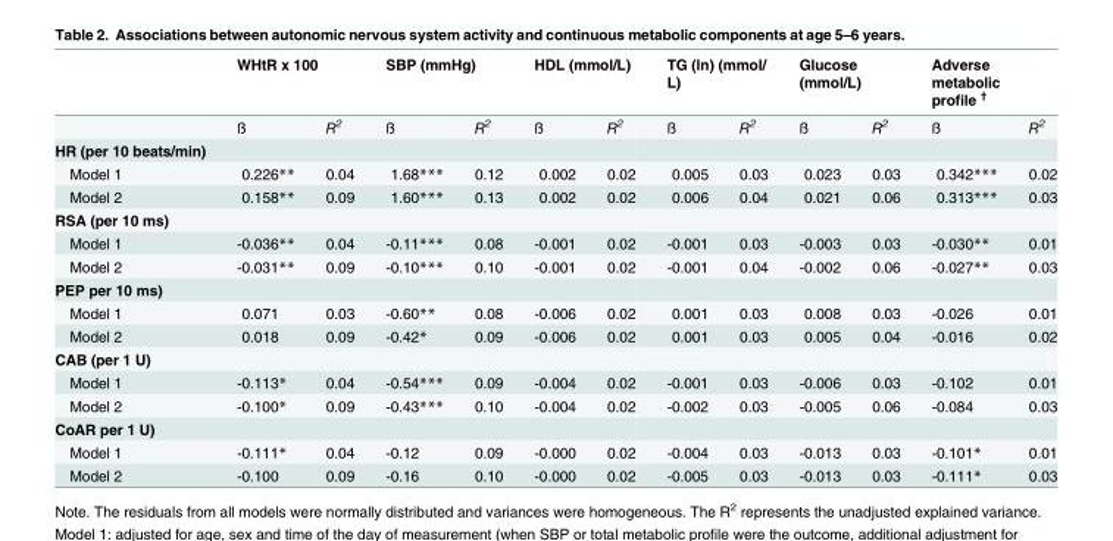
<table><thead><tr><td rowspan="2"></td><td colspan="2">WHtR x 100</td><td colspan="2">SBP (mmHg)</td><td colspan="2">HDL (mmol/L)</td><td colspan="2">TG (ln) (mmol/ L)</td><td colspan="2">Glucose (mmol/L)</td><td colspan="2">Adverse metabolic profile <sup>†</sup></td></tr><tr><td>ß</td><td>R<sup>2</sup></td><td>ß</td><td>R<sup>2</sup></td><td>ß</td><td>R<sup>2</sup></td><td>ß</td><td>R<sup>2</sup></td><td>ß</td><td>R<sup>2</sup></td><td>ß</td><td>R<sup>2</sup></td></tr></thead><tbody><tr><td colspan="13">HR (per 10 beats/min)</td></tr><tr><td>Model 1</td><td>0.226**</td><td>0.04</td><td>1.68***</td><td>0.12</td><td>0.002</td><td>0.02</td><td>0.005</td><td>0.03</td><td>0.023</td><td>0.03</td><td>0.342***</td><td>0.02</td></tr><tr><td>Model 2</td><td>0.158**</td><td>0.09</td><td>1.60***</td><td>0.13</td><td>0.002</td><td>0.02</td><td>0.006</td><td>0.04</td><td>0.021</td><td>0.06</td><td>0.313***</td><td>0.03</td></tr><tr><td colspan="13">RSA (per 10 ms)</td></tr><tr><td>Model 1</td><td>-0.036**</td><td>0.04</td><td>-0.11***</td><td>0.08</td><td>-0.001</td><td>0.02</td><td>-0.001</td><td>0.03</td><td>-0.003</td><td>0.03</td><td>-0.030**</td><td>0.01</td></tr><tr><td>Model 2</td><td>-0.031**</td><td>0.09</td><td>-0.10***</td><td>0.10</td><td>-0.001</td><td>0.02</td><td>-0.001</td><td>0.04</td><td>-0.002</td><td>0.06</td><td>-0.027**</td><td>0.03</td></tr><tr><td colspan="13">PEP per 10 ms)</td></tr><tr><td>Model 1</td><td>0.071</td><td>0.03</td><td>-0.60**</td><td>0.08</td><td>-0.006</td><td>0.02</td><td>0.001</td><td>0.03</td><td>0.008</td><td>0.03</td><td>-0.026</td><td>0.01</td></tr><tr><td>Model 2</td><td>0.018</td><td>0.09</td><td>-0.42*</td><td>0.09</td><td>-0.006</td><td>0.02</td><td>0.001</td><td>0.03</td><td>0.005</td><td>0.04</td><td>-0.016</td><td>0.02</td></tr><tr><td colspan="13">CAB (per 1 U)</td></tr><tr><td>Model 1</td><td>-0.113*</td><td>0.04</td><td>-0.54***</td><td>0.09</td><td>-0.004</td><td>0.02</td><td>-0.001</td><td>0.03</td><td>-0.006</td><td>0.03</td><td>-0.102</td><td>0.01</td></tr><tr><td>Model 2</td><td>-0.100*</td><td>0.09</td><td>-0.43***</td><td>0.10</td><td>-0.004</td><td>0.02</td><td>-0.002</td><td>0.03</td><td>-0.005</td><td>0.06</td><td>-0.084</td><td>0.03</td></tr><tr><td colspan="13">CoAR per 1 U)</td></tr><tr><td>Model 1</td><td>-0.111*</td><td>0.04</td><td>-0.12</td><td>0.09</td><td>-0.000</td><td>0.02</td><td>-0.004</td><td>0.03</td><td>-0.013</td><td>0.03</td><td>-0.101*</td><td>0.01</td></tr><tr><td>Model 2</td><td>-0.100</td><td>0.09</td><td>-0.16</td><td>0.10</td><td>-0.000</td><td>0.02</td><td>-0.005</td><td>0.03</td><td>-0.013</td><td>0.03</td><td>-0.111*</td><td>0.03</td></tr></tbody></table>